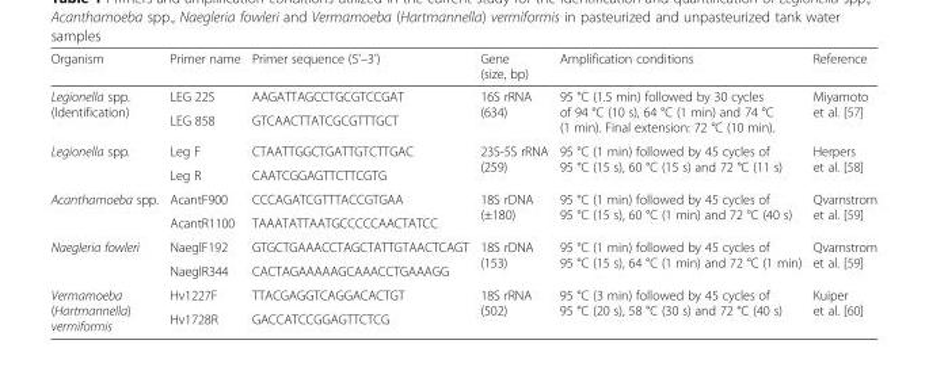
<table><thead><tr><td>Organism</td><td>Primer name</td><td>Primer sequence (5&#x27;–3&#x27;)</td><td>Gene (size, bp)</td><td>Amplification conditions</td><td>Reference</td></tr></thead><tbody><tr><td rowspan="2">Legionella spp. (Identification)</td><td>LEG 225</td><td>AAGATTAGCCTGCGTCCGAT</td><td rowspan="2">16S rRNA (634)</td><td rowspan="2">95 °C (1.5 min) followed by 30 cycles of 94 °C (10 s), 64 °C (1 min) and 74 °C (1 min). Final extension: 72 °C (10 min).</td><td rowspan="2">Miyamoto et al. [57]</td></tr><tr><td>LEG 858</td><td>GTCAACTTATCGCGTTTGCT</td></tr><tr><td rowspan="2">Legionella spp.</td><td>Leg F</td><td>CTAATTGGCTGATTGTCTTGAC</td><td rowspan="2">23S-5S rRNA (259)</td><td rowspan="2">95 °C (1 min) followed by 45 cycles of 95 °C (15 s), 60 °C (15 s) and 72 °C (11 s)</td><td rowspan="2">Herpers et al. [58]</td></tr><tr><td>Leg R</td><td>CAATCGGAGTTCTTCGTG</td></tr><tr><td rowspan="2">Acanthamoeba spp.</td><td>AcantF900</td><td>CCCAGATCGTTTACCGTGAA</td><td rowspan="2">18S rDNA (±180)</td><td rowspan="2">95 °C (1 min) followed by 45 cycles of 95 °C (15 s), 60 °C (1 min) and 72 °C (40 s)</td><td rowspan="2">Qvarnstrom et al. [59]</td></tr><tr><td>AcantR1100</td><td>TAAATATTAATGCCCCCAACTATCC</td></tr><tr><td rowspan="2">Naegleria fowleri</td><td>NaeglF192</td><td>GTGCTGAAACCTAGCTATTGTAACTCAGT</td><td rowspan="2">18S rDNA (153)</td><td rowspan="2">95 °C (1 min) followed by 45 cycles of 95 °C (15 s), 64 °C (1 min) and 72 °C (1 min)</td><td rowspan="2">Qvarnstrom et al. [59]</td></tr><tr><td>NaeglR344</td><td>CACTAGAAAAAGCAAACCTGAAAGG</td></tr><tr><td rowspan="2">Vermamoeba (Hartmannella) vermiformis</td><td>Hv1227F</td><td>TTACGAGGTCAGGACACTGT</td><td rowspan="2">18S rRNA (502)</td><td rowspan="2">95 °C (3 min) followed by 45 cycles of 95 °C (20 s), 58 °C (30 s) and 72 °C (40 s)</td><td rowspan="2">Kuiper et al. [60]</td></tr><tr><td>Hv1728R</td><td>GACCATCCGGAGTTCTCG</td></tr></tbody></table>